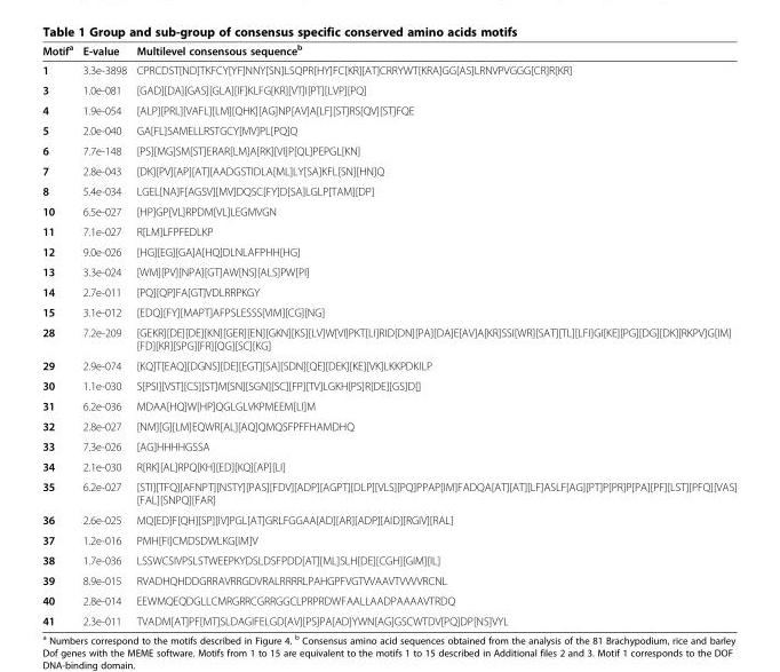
<table><thead><tr><td>Motif<sup>a</sup></td><td>E-value</td><td>Multilevel consensous sequence<sup>b</sup></td></tr></thead><tbody><tr><td>1</td><td>3.3e-3898</td><td>CPRCDST[ND]TKFCY[YF]NNY[SN]LSQPR[HY]FC[KR][AT]CRRYWT[KRA]GG[AS]LRNVPVGGG[CR]R[KR]</td></tr><tr><td>3</td><td>1.0e-081</td><td>[GAD][DA][GAS][GLA][IF]KLFG[KR][VT]I[PT][LVP][PQ]</td></tr><tr><td>4</td><td>1.9e-054</td><td>[ALP][PRL][VAFL][LM][QHK][AG]NP[AV]A[LF][ST]RS[QV][ST]FQE</td></tr><tr><td>5</td><td>2.0e-040</td><td>GA[FL]SAMELLRSTGCY[MV]PL[PQ]Q</td></tr><tr><td>6</td><td>7.7e-148</td><td>[PS][MG]SM[ST]ERAR[LM]A[RK][VI]P[QL]PEPGL[KN]</td></tr><tr><td>7</td><td>2.8e-043</td><td>[DK][PV][AP][AT][AADGSTIDLA[ML]LY[SA]KFL[SN][HN]Q</td></tr><tr><td>8</td><td>5.4e-034</td><td>LGEL[NA]F[AGSV][MV]DQSC[FY]D[SA]LGLP[TAM][DP]</td></tr><tr><td>10</td><td>6.5e-027</td><td>[HP]GP[VL]RPDM[VL]LEGMVGN</td></tr><tr><td>11</td><td>7.1e-027</td><td>R[LM]LFPFEDLKP</td></tr><tr><td>12</td><td>9.0e-026</td><td>[HG][EG][GA]A[HQ]DLNLAFPHH[HG]</td></tr><tr><td>13</td><td>3.3e-024</td><td>[WM][PV][NPA][GT]AW[NS][ALS]PW[PI]</td></tr><tr><td>14</td><td>2.7e-011</td><td>[PQ][QP]FA[GT]VDLRRPKGY</td></tr><tr><td>15</td><td>3.1e-012</td><td>[EDQ][FY][MAPT]AFPSLESSS[VIM][CG][NG]</td></tr><tr><td>28</td><td>7.2e-209</td><td>[GEKR][DE][DE][KN][GER][EN][GKN][KS][LV]W[VI]PKT[LI]RID[DN][PA][DA]E[AV]A[KR]SSI[WR][SAT][TL][LFI]GI[KE][PG][DG][DK][RKPV]G[IM] [FD][KR][SPG][FR][QG][SC][KG]</td></tr><tr><td>29</td><td>2.9e-074</td><td>[KQ]T[EAQ][DGNS][DE][EGT][SA][SDN][QE][DEK][KE][VK]LKKPDKILP</td></tr><tr><td>30</td><td>1.1e-030</td><td>S[PSI][VST][CS][ST]M[SN][SGN][SC][FP][TV]LGKH[PS]R[DE][GS]D[]</td></tr><tr><td>31</td><td>6.2e-036</td><td>MDAA[HQ]W[HP]QGLGLVKPMEEM[LI]M</td></tr><tr><td>32</td><td>2.8e-027</td><td>[NM][G][LM]EQWR[AL][AQ]QMQSFPFFHAMDHQ</td></tr><tr><td>33</td><td>7.3e-026</td><td>[AG]HHHHGSSA</td></tr><tr><td>34</td><td>2.1e-030</td><td>R[RK][AL]RPQ[KH][ED][KQ][AP][LI]</td></tr><tr><td>35</td><td>6.2e-027</td><td>[STI][TFQ][AFNPT][NSTY][PAS][FDV][ADP][AGPT][DLP][VLS][PQ]PPAP[IM]FADQA[AT][AT][LF]ASLF[AG][PT]P[PR]P[PA][PF][LST][PFQ][VAS] [FAL][SNPQ][FAR]</td></tr><tr><td>36</td><td>2.6e-025</td><td>MQ[ED]F[QH][SP][IV]PGL[AT]GRLFGGAA[AD][AR][ADP][AID][RGIV][RAL]</td></tr><tr><td>37</td><td>1.2e-016</td><td>PMH[FI]CMDSDWLKG[IM]V</td></tr><tr><td>38</td><td>1.7e-036</td><td>LSSWCSIVPSLSTWEEPKYDSLDSFPDD[AT][ML]SLH[DE][CGH][GIM][IL]</td></tr><tr><td>39</td><td>8.9e-015</td><td>RVADHQHDDGRRAVRRGDVRALRRRRLPAHGPFVGTVVAAVTVVVVRCNL</td></tr><tr><td>40</td><td>2.8e-014</td><td>EEWMQEQDGLLCMRGRRCGRRGGCLPRPRDWFAALLAADPAAAAVTRDQ</td></tr><tr><td>41</td><td>2.3e-011</td><td>TVADM[AT]PF[MT]SLDAGIFELGD[AV][PS]PA[AD]YWN[AG]GSCWTDV[PQ]DP[NS]VYL</td></tr></tbody></table>